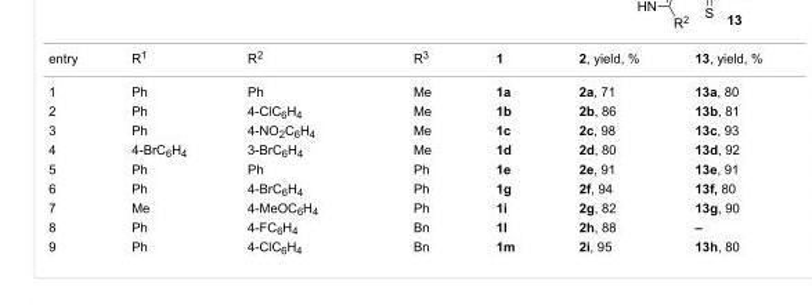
<table><tbody><tr><td>entry</td><td>R<sup>1</sup></td><td>R<sup>2</sup></td><td>R<sup>3</sup></td><td>1</td><td>2, yield, %</td><td>13, yield, %</td></tr><tr><td>1</td><td>Ph</td><td>Ph</td><td>Me</td><td>1a</td><td>2a, 71</td><td>13a, 80</td></tr><tr><td>2</td><td>Ph</td><td>4-ClC<sub>6</sub>H<sub>4</sub></td><td>Me</td><td>1b</td><td>2b, 86</td><td>13b, 81</td></tr><tr><td>3</td><td>Ph</td><td>4-NO<sub>2</sub>C<sub>6</sub>H<sub>4</sub></td><td>Me</td><td>1c</td><td>2c, 98</td><td>13c, 93</td></tr><tr><td>4</td><td>4-BrC<sub>6</sub>H<sub>4</sub></td><td>3-BrC<sub>6</sub>H<sub>4</sub></td><td>Me</td><td>1d</td><td>2d, 80</td><td>13d, 92</td></tr><tr><td>5</td><td>Ph</td><td>Ph</td><td>Ph</td><td>1e</td><td>2e, 91</td><td>13e, 91</td></tr><tr><td>6</td><td>Ph</td><td>4-BrC<sub>6</sub>H<sub>4</sub></td><td>Ph</td><td>1g</td><td>2f, 94</td><td>13f, 80</td></tr><tr><td>7</td><td>Me</td><td>4-MeOC<sub>6</sub>H<sub>4</sub></td><td>Ph</td><td>1i</td><td>2g, 82</td><td>13g, 90</td></tr><tr><td>8</td><td>Ph</td><td>4-FC<sub>6</sub>H<sub>4</sub></td><td>Bn</td><td>1l</td><td>2h, 88</td><td>–</td></tr><tr><td>9</td><td>Ph</td><td>4-ClC<sub>6</sub>H<sub>4</sub></td><td>Bn</td><td>1m</td><td>2i, 95</td><td>13h, 80</td></tr></tbody></table>